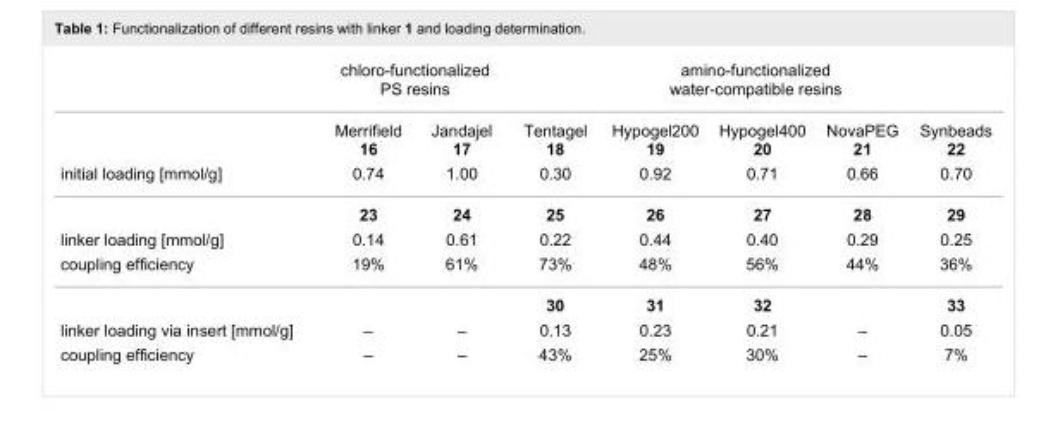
<table><thead><tr><td rowspan="2"></td><td colspan="2">chloro-functionalized PS resins</td><td colspan="5">amino-functionalized water-compatible resins</td></tr><tr><td>Merrifield 16</td><td>Jandajel 17</td><td>Tentagel 18</td><td>Hypogel200 19</td><td>Hypogel400 20</td><td>NovaPEG 21</td><td>Synbeads 22</td></tr></thead><tbody><tr><td rowspan="2">initial loading [mmol/g]</td><td>0.74</td><td>1.00</td><td>0.30</td><td>0.92</td><td>0.71</td><td>0.66</td><td>0.70</td></tr><tr><td>23</td><td>24</td><td>25</td><td>26</td><td>27</td><td>28</td><td>29</td></tr><tr><td>linker loading [mmol/g]</td><td>0.14</td><td>0.61</td><td>0.22</td><td>0.44</td><td>0.40</td><td>0.29</td><td>0.25</td></tr><tr><td rowspan="2">coupling efficiency</td><td>19%</td><td>61%</td><td>73%</td><td>48%</td><td>56%</td><td>44%</td><td>36%</td></tr><tr><td></td><td></td><td>30</td><td>31</td><td>32</td><td></td><td>33</td></tr><tr><td>linker loading via insert [mmol/g]</td><td>–</td><td>–</td><td>0.13</td><td>0.23</td><td>0.21</td><td>–</td><td>0.05</td></tr><tr><td>coupling efficiency</td><td>–</td><td>–</td><td>43%</td><td>25%</td><td>30%</td><td>–</td><td>7%</td></tr></tbody></table>